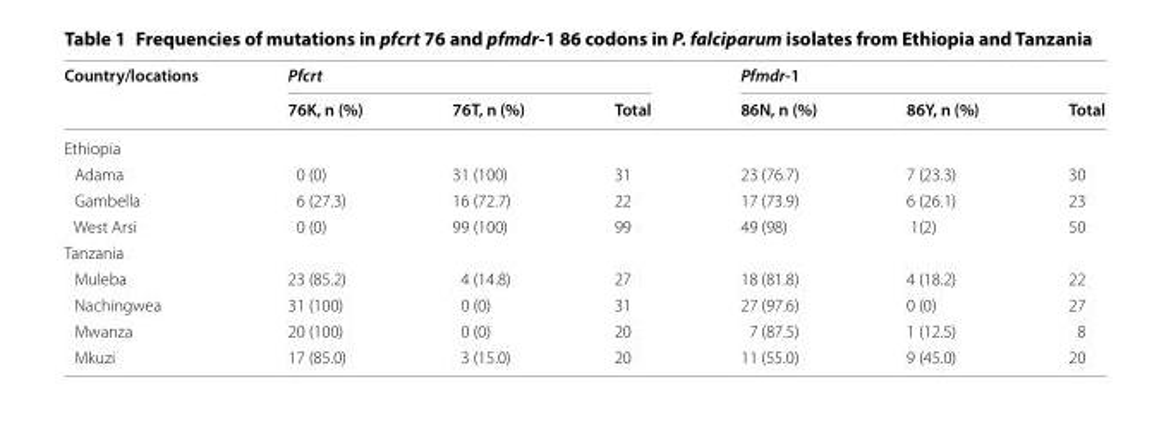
<table><thead><tr><td rowspan="2">Country/locations</td><td colspan="3">Pfcrt</td><td colspan="3">Pfmdr‑1</td></tr><tr><td>76K, n (%)</td><td>76T, n (%)</td><td>Total</td><td>86N, n (%)</td><td>86Y, n (%)</td><td>Total</td></tr></thead><tbody><tr><td colspan="7">Ethiopia</td></tr><tr><td>Adama</td><td>0 (0)</td><td>31 (100)</td><td>31</td><td>23 (76.7)</td><td>7 (23.3)</td><td>30</td></tr><tr><td>Gambella</td><td>6 (27.3)</td><td>16 (72.7)</td><td>22</td><td>17 (73.9)</td><td>6 (26.1)</td><td>23</td></tr><tr><td>West Arsi</td><td>0 (0)</td><td>99 (100)</td><td>99</td><td>49 (98)</td><td>1(2)</td><td>50</td></tr><tr><td colspan="7">Tanzania</td></tr><tr><td>Muleba</td><td>23 (85.2)</td><td>4 (14.8)</td><td>27</td><td>18 (81.8)</td><td>4 (18.2)</td><td>22</td></tr><tr><td>Nachingwea</td><td>31 (100)</td><td>0 (0)</td><td>31</td><td>27 (97.6)</td><td>0 (0)</td><td>27</td></tr><tr><td>Mwanza</td><td>20 (100)</td><td>0 (0)</td><td>20</td><td>7 (87.5)</td><td>1 (12.5)</td><td>8</td></tr><tr><td>Mkuzi</td><td>17 (85.0)</td><td>3 (15.0)</td><td>20</td><td>11 (55.0)</td><td>9 (45.0)</td><td>20</td></tr></tbody></table>